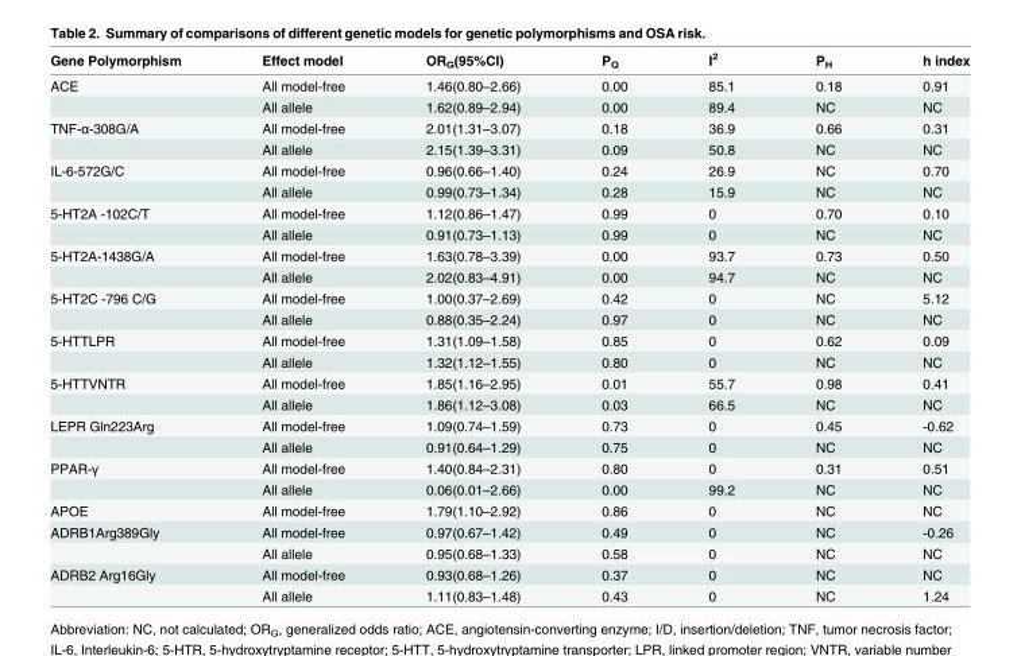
<table><thead><tr><td>Gene Polymorphism</td><td>Effect model</td><td>OR<sub>G</sub>(95%CI)</td><td>P<sub>Q</sub></td><td>I<sup>2</sup></td><td>P<sub>H</sub></td><td>h index</td></tr></thead><tbody><tr><td rowspan="2">ACE</td><td>All model-free</td><td>1.46(0.80–2.66)</td><td>0.00</td><td>85.1</td><td>0.18</td><td>0.91</td></tr><tr><td>All allele</td><td>1.62(0.89–2.94)</td><td>0.00</td><td>89.4</td><td>NC</td><td>NC</td></tr><tr><td rowspan="2">TNF-α-308G/A</td><td>All model-free</td><td>2.01(1.31–3.07)</td><td>0.18</td><td>36.9</td><td>0.66</td><td>0.31</td></tr><tr><td>All allele</td><td>2.15(1.39–3.31)</td><td>0.09</td><td>50.8</td><td>NC</td><td>NC</td></tr><tr><td rowspan="2">IL-6-572G/C</td><td>All model-free</td><td>0.96(0.66–1.40)</td><td>0.24</td><td>26.9</td><td>NC</td><td>0.70</td></tr><tr><td>All allele</td><td>0.99(0.73–1.34)</td><td>0.28</td><td>15.9</td><td>NC</td><td>NC</td></tr><tr><td rowspan="2">5-HT2A -102C/T</td><td>All model-free</td><td>1.12(0.86–1.47)</td><td>0.99</td><td>0</td><td>0.70</td><td>0.10</td></tr><tr><td>All allele</td><td>0.91(0.73–1.13)</td><td>0.99</td><td>0</td><td>NC</td><td>NC</td></tr><tr><td rowspan="2">5-HT2A-1438G/A</td><td>All model-free</td><td>1.63(0.78–3.39)</td><td>0.00</td><td>93.7</td><td>0.73</td><td>0.50</td></tr><tr><td>All allele</td><td>2.02(0.83–4.91)</td><td>0.00</td><td>94.7</td><td>NC</td><td>NC</td></tr><tr><td rowspan="2">5-HT2C -796 C/G</td><td>All model-free</td><td>1.00(0.37–2.69)</td><td>0.42</td><td>0</td><td>NC</td><td>5.12</td></tr><tr><td>All allele</td><td>0.88(0.35–2.24)</td><td>0.97</td><td>0</td><td>NC</td><td>NC</td></tr><tr><td rowspan="2">5-HTTLPR</td><td>All model-free</td><td>1.31(1.09–1.58)</td><td>0.85</td><td>0</td><td>0.62</td><td>0.09</td></tr><tr><td>All allele</td><td>1.32(1.12–1.55)</td><td>0.80</td><td>0</td><td>NC</td><td>NC</td></tr><tr><td rowspan="2">5-HTTVNTR</td><td>All model-free</td><td>1.85(1.16–2.95)</td><td>0.01</td><td>55.7</td><td>0.98</td><td>0.41</td></tr><tr><td>All allele</td><td>1.86(1.12–3.08)</td><td>0.03</td><td>66.5</td><td>NC</td><td>NC</td></tr><tr><td rowspan="2">LEPR Gln223Arg</td><td>All model-free</td><td>1.09(0.74–1.59)</td><td>0.73</td><td>0</td><td>0.45</td><td>-0.62</td></tr><tr><td>All allele</td><td>0.91(0.64–1.29)</td><td>0.75</td><td>0</td><td>NC</td><td>NC</td></tr><tr><td rowspan="2">PPAR-γ</td><td>All model-free</td><td>1.40(0.84–2.31)</td><td>0.80</td><td>0</td><td>0.31</td><td>0.51</td></tr><tr><td>All allele</td><td>0.06(0.01–2.66)</td><td>0.00</td><td>99.2</td><td>NC</td><td>NC</td></tr><tr><td>APOE</td><td>All model-free</td><td>1.79(1.10–2.92)</td><td>0.86</td><td>0</td><td>NC</td><td>NC</td></tr><tr><td rowspan="2">ADRB1Arg389Gly</td><td>All model-free</td><td>0.97(0.67–1.42)</td><td>0.49</td><td>0</td><td>NC</td><td>-0.26</td></tr><tr><td>All allele</td><td>0.95(0.68–1.33)</td><td>0.58</td><td>0</td><td>NC</td><td>NC</td></tr><tr><td rowspan="2">ADRB2 Arg16Gly</td><td>All model-free</td><td>0.93(0.68–1.26)</td><td>0.37</td><td>0</td><td>NC</td><td>NC</td></tr><tr><td>All allele</td><td>1.11(0.83–1.48)</td><td>0.43</td><td>0</td><td>NC</td><td>1.24</td></tr></tbody></table>